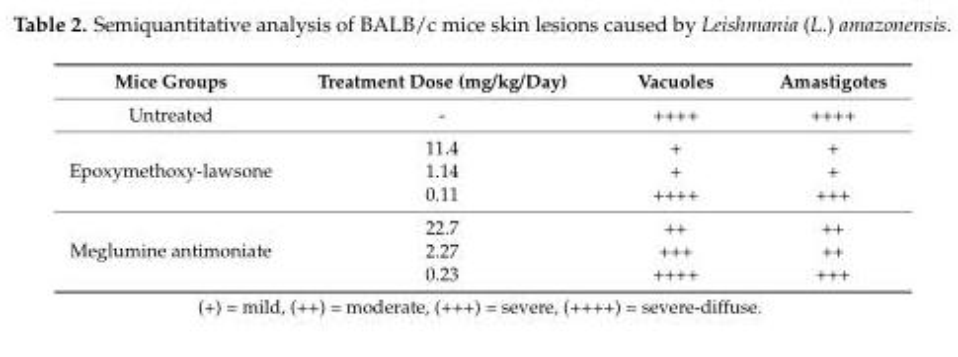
<table><thead><tr><td>Mice Groups</td><td>Treatment Dose (mg/kg/Day)</td><td>Vacuoles</td><td>Amastigotes</td></tr></thead><tbody><tr><td>Untreated</td><td>-</td><td>++++</td><td>++++</td></tr><tr><td rowspan="3">Epoxymethoxy-lawsone</td><td>11.4</td><td>+</td><td>+</td></tr><tr><td>1.14</td><td>+</td><td>+</td></tr><tr><td>0.11</td><td>++++</td><td>+++</td></tr><tr><td rowspan="3">Meglumine antimoniate</td><td>22.7</td><td>++</td><td>++</td></tr><tr><td>2.27</td><td>+++</td><td>++</td></tr><tr><td>0.23</td><td>++++</td><td>+++</td></tr></tbody></table>